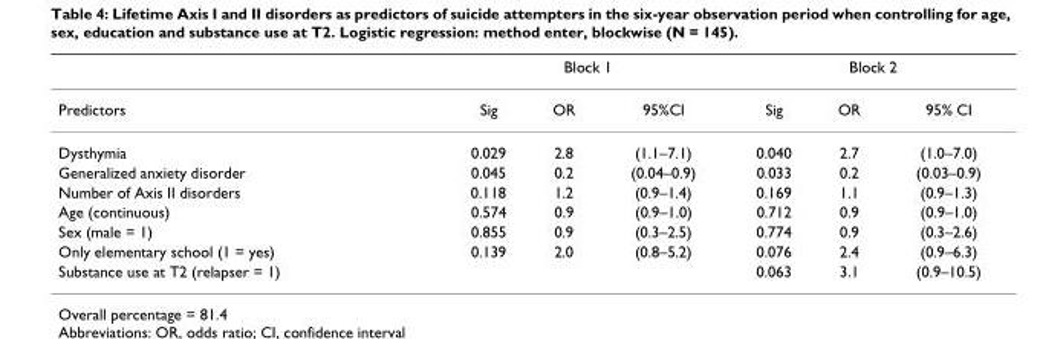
<table><thead><tr><td rowspan="2">Predictors</td><td colspan="3">Block 1</td><td colspan="3">Block 2</td></tr><tr><td>Sig</td><td>OR</td><td>95%CI</td><td>Sig</td><td>OR</td><td>95% CI</td></tr></thead><tbody><tr><td>Dysthymia</td><td>0.029</td><td>2.8</td><td>(1.1–7.1)</td><td>0.040</td><td>2.7</td><td>(1.0–7.0)</td></tr><tr><td>Generalized anxiety disorder</td><td>0.045</td><td>0.2</td><td>(0.04–0.9)</td><td>0.033</td><td>0.2</td><td>(0.03–0.9)</td></tr><tr><td>Number of Axis II disorders</td><td>0.118</td><td>1.2</td><td>(0.9–1.4)</td><td>0.169</td><td>1.1</td><td>(0.9–1.3)</td></tr><tr><td>Age (continuous)</td><td>0.574</td><td>0.9</td><td>(0.9–1.0)</td><td>0.712</td><td>0.9</td><td>(0.9–1.0)</td></tr><tr><td>Sex (male = 1)</td><td>0.855</td><td>0.9</td><td>(0.3–2.5)</td><td>0.774</td><td>0.9</td><td>(0.3–2.6)</td></tr><tr><td>Only elementary school (1 = yes)</td><td>0.139</td><td>2.0</td><td>(0.8–5.2)</td><td>0.076</td><td>2.4</td><td>(0.9–6.3)</td></tr><tr><td>Substance use at T2 (relapser = 1)</td><td></td><td></td><td></td><td>0.063</td><td>3.1</td><td>(0.9–10.5)</td></tr></tbody></table>